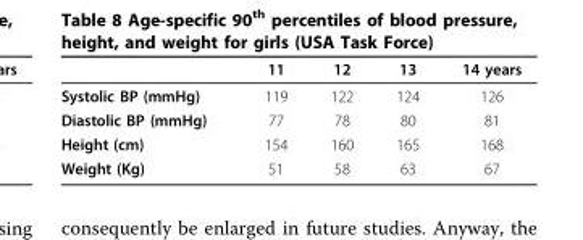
<table><thead><tr><td></td><td>11</td><td>12</td><td>13</td><td>14 years</td></tr></thead><tbody><tr><td>Systolic BP (mmHg)</td><td>119</td><td>122</td><td>124</td><td>126</td></tr><tr><td>Diastolic BP (mmHg)</td><td>77</td><td>78</td><td>80</td><td>81</td></tr><tr><td>Height (cm)</td><td>154</td><td>160</td><td>165</td><td>168</td></tr><tr><td>Weight (Kg)</td><td>51</td><td>58</td><td>63</td><td>67</td></tr></tbody></table>